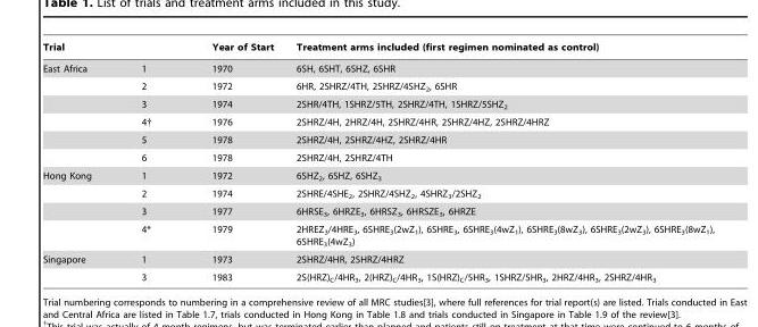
<table><thead><tr><td colspan="2">Trial</td><td rowspan="2">Year of Start 1970</td><td rowspan="2">Treatment arms included (first regimen nominated as control) 6SH, 6SHT, 6SHZ, 6SHR</td></tr><tr><td>East Africa</td><td>1</td></tr></thead><tbody><tr><td></td><td>2</td><td>1972</td><td>6HR, 2SHRZ/4TH, 2SHRZ/4SHZ<sub>2</sub>, 6SHR</td></tr><tr><td></td><td>3</td><td>1974</td><td>2SHR/4TH, 1SHRZ/5TH, 2SHRZ/4TH, 1SHRZ/5SHZ<sub>2</sub></td></tr><tr><td></td><td>4†</td><td>1976</td><td>2SHRZ/4H, 2HRZ/4H, 2SHRZ/4HR, 2SHRZ/4HZ, 2SHRZ/4HRZ</td></tr><tr><td></td><td>5</td><td>1978</td><td>2SHRZ/4H, 2SHRZ/4HZ, 2SHRZ/4HR</td></tr><tr><td></td><td>6</td><td>1978</td><td>2SHRZ/4H, 2SHRZ/4TH</td></tr><tr><td rowspan="4">Hong Kong</td><td>1</td><td>1972</td><td>6SHZ<sub>2</sub>, 6SHZ, 6SHZ<sub>3</sub></td></tr><tr><td>2</td><td>1974</td><td>2SHRE/4SHE<sub>2</sub>, 2SHRZ/4SHZ<sub>2</sub>, 4SHRZ<sub>3</sub>/2SHZ<sub>2</sub></td></tr><tr><td>3</td><td>1977</td><td>6HRSE<sub>3</sub>, 6HRZE<sub>3</sub>, 6HRSZ<sub>3</sub>, 6HRSZE<sub>3</sub>, 6HRZE</td></tr><tr><td>4*</td><td>1979</td><td>2HREZ<sub>3</sub>/4HRE<sub>3</sub>, 6SHRE<sub>3</sub>(2wZ<sub>1</sub>), 6SHRE<sub>3</sub>, 6SHRE<sub>3</sub>(4wZ<sub>1</sub>), 6SHRE<sub>3</sub>(8wZ<sub>3</sub>), 6SHRE<sub>3</sub>(2wZ<sub>3</sub>), 6SHRE<sub>3</sub>(8wZ<sub>1</sub>), 6SHRE<sub>3</sub>(4wZ<sub>3</sub>)</td></tr><tr><td rowspan="2">Singapore</td><td>1</td><td>1973</td><td>2SHRZ/4HR, 2SHRZ/4HRZ</td></tr><tr><td>3</td><td>1983</td><td>2S(HRZ)<sub>C</sub>/4HR<sub>3</sub>, 2(HRZ)<sub>C</sub>/4HR<sub>3</sub>, 1S(HRZ)<sub>C</sub>/5HR<sub>3</sub>, 1SHRZ/5HR<sub>3</sub>, 2HRZ/4HR<sub>3</sub>, 2SHRZ/4HR<sub>3</sub></td></tr></tbody></table>